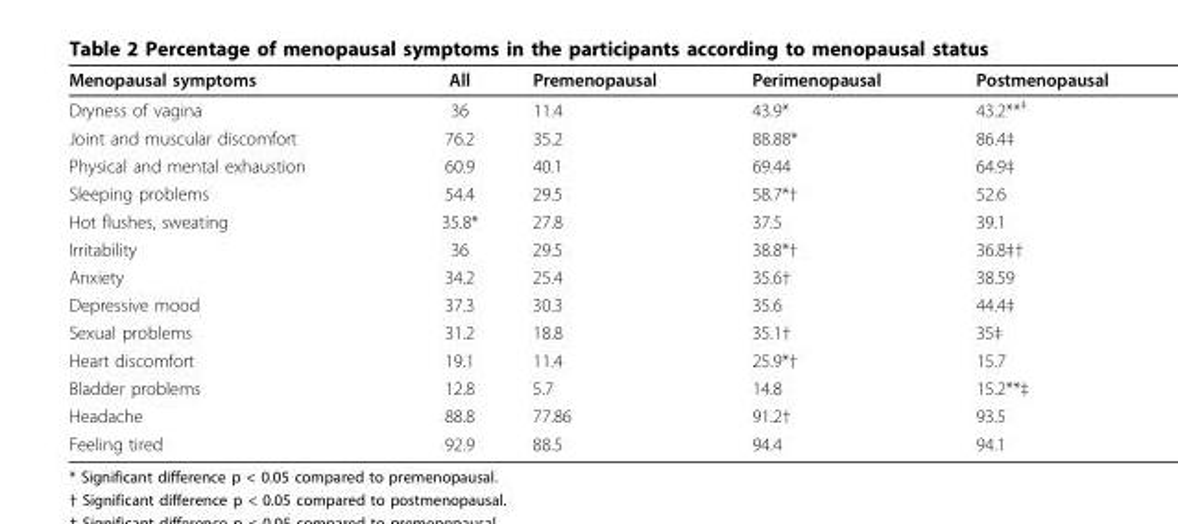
<table><thead><tr><td>Menopausal symptoms</td><td>All</td><td>Premenopausal</td><td>Perimenopausal</td><td>Postmenopausal</td></tr></thead><tbody><tr><td>Dryness of vagina</td><td>36</td><td>11.4</td><td>43.9*</td><td>43.2**<sup>‡</sup></td></tr><tr><td>Joint and muscular discomfort</td><td>76.2</td><td>35.2</td><td>88.88*</td><td>86.4‡</td></tr><tr><td>Physical and mental exhaustion</td><td>60.9</td><td>40.1</td><td>69.44</td><td>64.9‡</td></tr><tr><td>Sleeping problems</td><td>54.4</td><td>29.5</td><td>58.7*†</td><td>52.6</td></tr><tr><td>Hot flushes, sweating</td><td>35.8*</td><td>27.8</td><td>37.5</td><td>39.1</td></tr><tr><td>Irritability</td><td>36</td><td>29.5</td><td>38.8*†</td><td>36.8‡†</td></tr><tr><td>Anxiety</td><td>34.2</td><td>25.4</td><td>35.6†</td><td>38.59</td></tr><tr><td>Depressive mood</td><td>37.3</td><td>30.3</td><td>35.6</td><td>44.4‡</td></tr><tr><td>Sexual problems</td><td>31.2</td><td>18.8</td><td>35.1†</td><td>35‡</td></tr><tr><td>Heart discomfort</td><td>19.1</td><td>11.4</td><td>25.9*†</td><td>15.7</td></tr><tr><td>Bladder problems</td><td>12.8</td><td>5.7</td><td>14.8</td><td>15.2**‡</td></tr><tr><td>Headache</td><td>88.8</td><td>77.86</td><td>91.2†</td><td>93.5</td></tr><tr><td>Feeling tired</td><td>92.9</td><td>88.5</td><td>94.4</td><td>94.1</td></tr></tbody></table>